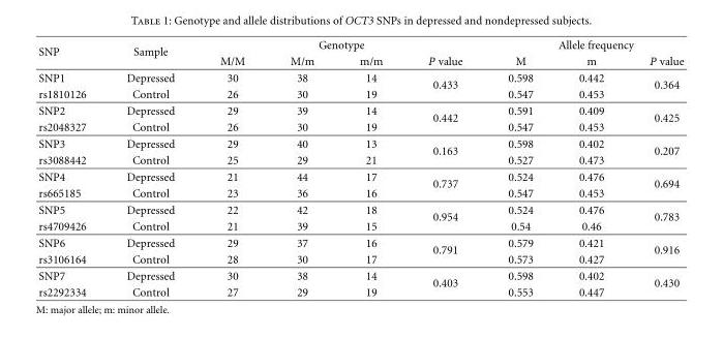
<table><thead><tr><td rowspan="2">SNP</td><td rowspan="2">Sample</td><td colspan="4">Genotype</td><td colspan="3">Allele frequency</td></tr><tr><td>M/M</td><td>M/m</td><td>m/m</td><td>P value</td><td>M</td><td>m</td><td>P value</td></tr></thead><tbody><tr><td>SNP1</td><td>Depressed</td><td>30</td><td>38</td><td>14</td><td rowspan="2">0.433</td><td>0.598</td><td>0.442</td><td rowspan="2">0.364</td></tr><tr><td>rs1810126</td><td>Control</td><td>26</td><td>30</td><td>19</td><td>0.547</td><td>0.453</td></tr><tr><td>SNP2</td><td>Depressed</td><td>29</td><td>39</td><td>14</td><td rowspan="2">0.442</td><td>0.591</td><td>0.409</td><td rowspan="2">0.425</td></tr><tr><td>rs2048327</td><td>Control</td><td>26</td><td>30</td><td>19</td><td>0.547</td><td>0.453</td></tr><tr><td>SNP3</td><td>Depressed</td><td>29</td><td>40</td><td>13</td><td rowspan="2">0.163</td><td>0.598</td><td>0.402</td><td rowspan="2">0.207</td></tr><tr><td>rs3088442</td><td>Control</td><td>25</td><td>29</td><td>21</td><td>0.527</td><td>0.473</td></tr><tr><td>SNP4</td><td>Depressed</td><td>21</td><td>44</td><td>17</td><td rowspan="2">0.737</td><td>0.524</td><td>0.476</td><td rowspan="2">0.694</td></tr><tr><td>rs665185</td><td>Control</td><td>23</td><td>36</td><td>16</td><td>0.547</td><td>0.453</td></tr><tr><td>SNP5</td><td>Depressed</td><td>22</td><td>42</td><td>18</td><td rowspan="2">0.954</td><td>0.524</td><td>0.476</td><td rowspan="2">0.783</td></tr><tr><td>rs4709426</td><td>Control</td><td>21</td><td>39</td><td>15</td><td>0.54</td><td>0.46</td></tr><tr><td>SNP6</td><td>Depressed</td><td>29</td><td>37</td><td>16</td><td rowspan="2">0.791</td><td>0.579</td><td>0.421</td><td rowspan="2">0.916</td></tr><tr><td>rs3106164</td><td>Control</td><td>28</td><td>30</td><td>17</td><td>0.573</td><td>0.427</td></tr><tr><td>SNP7</td><td>Depressed</td><td>30</td><td>38</td><td>14</td><td rowspan="2">0.403</td><td>0.598</td><td>0.402</td><td rowspan="2">0.430</td></tr><tr><td>rs2292334</td><td>Control</td><td>27</td><td>29</td><td>19</td><td>0.553</td><td>0.447</td></tr></tbody></table>